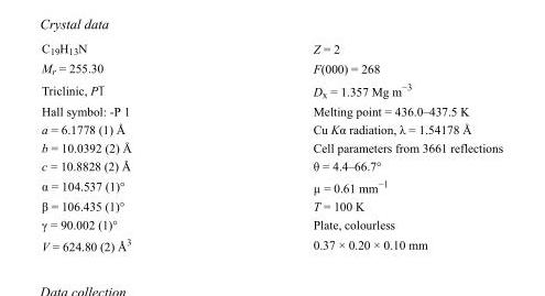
<table><tbody><tr><td>C<sub>19</sub>H<sub>13</sub>N</td><td>Z = 2</td></tr><tr><td>M<sub>r</sub> = 255.30</td><td>F(000) = 268</td></tr><tr><td>Triclinic, P1</td><td>D<sub>x</sub> = 1.357 Mg m<sup>−3</sup></td></tr><tr><td>Hall symbol: -P 1</td><td>Melting point = 436.0–437.5 K</td></tr><tr><td>a = 6.1778 (1) Å</td><td>Cu Kα radiation, λ = 1.54178 Å</td></tr><tr><td>b = 10.0392 (2) Å</td><td>Cell parameters from 3661 reflections</td></tr><tr><td>c = 10.8828 (2) Å</td><td>θ = 4.4–66.7°</td></tr><tr><td>α = 104.537 (1)°</td><td>µ = 0.61 mm<sup>−1</sup></td></tr><tr><td>β = 106.435 (1)°</td><td>T = 100 K</td></tr><tr><td>γ = 90.002 (1)°</td><td>Plate, colourless</td></tr><tr><td>V = 624.80 (2) Å<sup>3</sup></td><td>0.37 × 0.20 × 0.10 mm</td></tr></tbody></table>